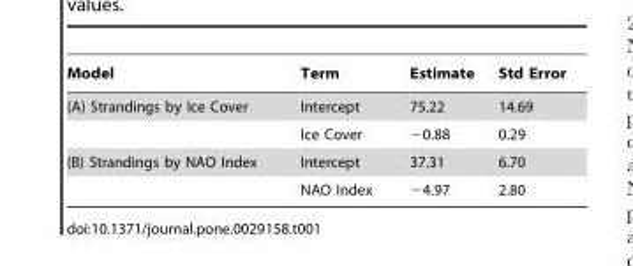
<table><thead><tr><td>Model</td><td>Term</td><td>Estimate</td><td>Std Error</td></tr></thead><tbody><tr><td rowspan="2">(A) Strandings by Ice Cover</td><td>Intercept</td><td>75.22</td><td>14.69</td></tr><tr><td>Ice Cover</td><td>−0.88</td><td>0.29</td></tr><tr><td rowspan="2">(B) Strandings by NAO Index</td><td>Intercept</td><td>37.31</td><td>6.70</td></tr><tr><td>NAO Index</td><td>−4.97</td><td>2.80</td></tr></tbody></table>